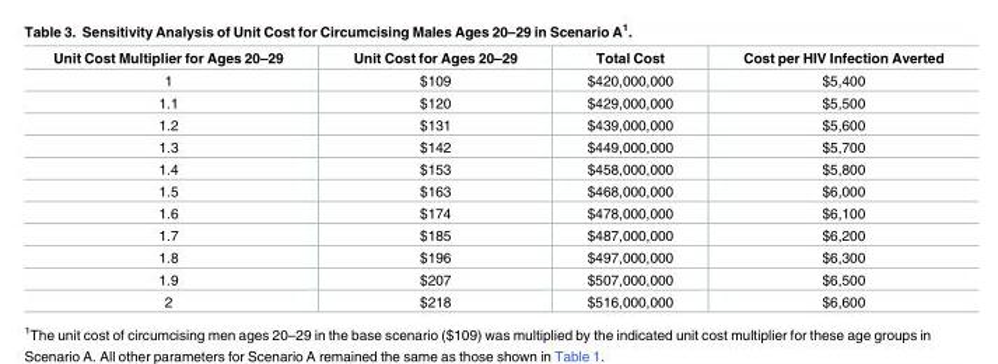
<table><thead><tr><td>Unit Cost Multiplier for Ages 20–29</td><td>Unit Cost for Ages 20–29</td><td>Total Cost</td><td>Cost per HIV Infection Averted</td></tr></thead><tbody><tr><td>1</td><td>$109</td><td>$420,000,000</td><td>$5,400</td></tr><tr><td>1.1</td><td>$120</td><td>$429,000,000</td><td>$5,500</td></tr><tr><td>1.2</td><td>$131</td><td>$439,000,000</td><td>$5,600</td></tr><tr><td>1.3</td><td>$142</td><td>$449,000,000</td><td>$5,700</td></tr><tr><td>1.4</td><td>$153</td><td>$458,000,000</td><td>$5,800</td></tr><tr><td>1.5</td><td>$163</td><td>$468,000,000</td><td>$6,000</td></tr><tr><td>1.6</td><td>$174</td><td>$478,000,000</td><td>$6,100</td></tr><tr><td>1.7</td><td>$185</td><td>$487,000,000</td><td>$6,200</td></tr><tr><td>1.8</td><td>$196</td><td>$497,000,000</td><td>$6,300</td></tr><tr><td>1.9</td><td>$207</td><td>$507,000,000</td><td>$6,500</td></tr><tr><td>2</td><td>$218</td><td>$516,000,000</td><td>$6,600</td></tr></tbody></table>